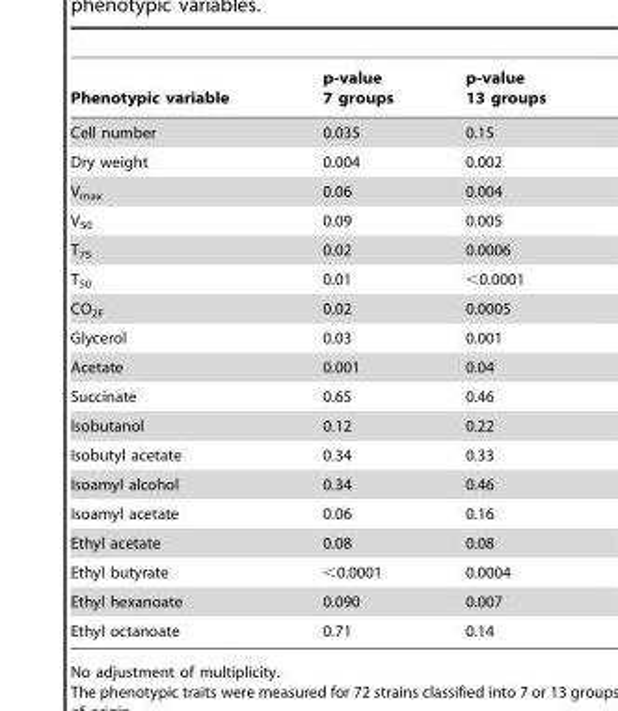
<table><thead><tr><td>Phenotypic variable</td><td>p-value 7 groups</td><td>p-value 13 groups</td></tr></thead><tbody><tr><td>Cell number</td><td>0.035</td><td>0.15</td></tr><tr><td>Dry weight</td><td>0.004</td><td>0.002</td></tr><tr><td>V<sub>max</sub></td><td>0.06</td><td>0.004</td></tr><tr><td>V<sub>50</sub></td><td>0.09</td><td>0.005</td></tr><tr><td>T<sub>75</sub></td><td>0.02</td><td>0.0006</td></tr><tr><td>T<sub>50</sub></td><td>0.01</td><td>&lt;0.0001</td></tr><tr><td>CO<sub>2F</sub></td><td>0.02</td><td>0.0005</td></tr><tr><td>Glycerol</td><td>0.03</td><td>0.001</td></tr><tr><td>Acetate</td><td>0.001</td><td>0.04</td></tr><tr><td>Succinate</td><td>0.65</td><td>0.46</td></tr><tr><td>Isobutanol</td><td>0.12</td><td>0.22</td></tr><tr><td>Isobutyl acetate</td><td>0.34</td><td>0.33</td></tr><tr><td>Isoamyl alcohol</td><td>0.34</td><td>0.46</td></tr><tr><td>Isoamyl acetate</td><td>0.06</td><td>0.16</td></tr><tr><td>Ethyl acetate</td><td>0.08</td><td>0.08</td></tr><tr><td>Ethyl butyrate</td><td>&lt;0.0001</td><td>0.0004</td></tr><tr><td>Ethyl hexanoate</td><td>0.090</td><td>0.007</td></tr><tr><td>Ethyl octanoate</td><td>0.71</td><td>0.14</td></tr></tbody></table>